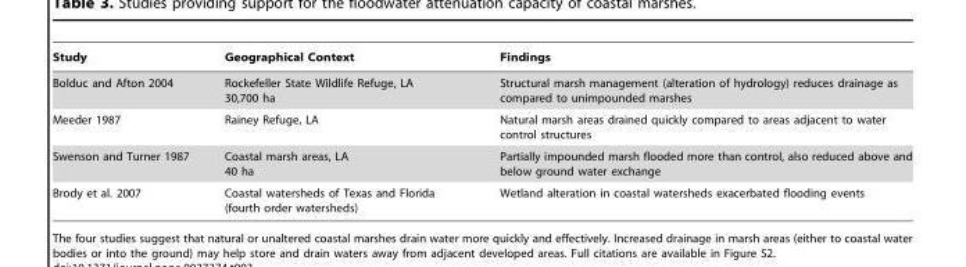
<table><thead><tr><td>Study</td><td>Geographical Context</td><td>Findings</td></tr></thead><tbody><tr><td>Bolduc and Afton 2004</td><td>Rockefeller State Wildlife Refuge, LA 30,700 ha</td><td>Structural marsh management (alteration of hydrology) reduces drainage as compared to unimpounded marshes</td></tr><tr><td>Meeder 1987</td><td>Rainey Refuge, LA</td><td>Natural marsh areas drained quickly compared to areas adjacent to water control structures</td></tr><tr><td>Swenson and Turner 1987</td><td>Coastal marsh areas, LA 40 ha</td><td>Partially impounded marsh flooded more than control, also reduced above and below ground water exchange</td></tr><tr><td>Brody et al. 2007</td><td>Coastal watersheds of Texas and Florida (fourth order watersheds)</td><td>Wetland alteration in coastal watersheds exacerbated flooding events</td></tr></tbody></table>